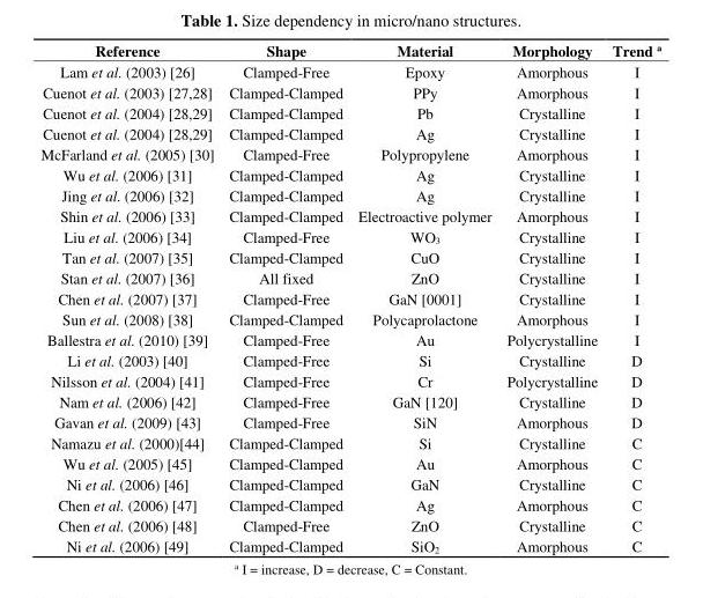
<table><thead><tr><td>Reference</td><td>Shape</td><td>Material</td><td>Morphology</td><td>Trend <sup>a</sup></td></tr></thead><tbody><tr><td>Lam et al. (2003) [26]</td><td>Clamped-Free</td><td>Epoxy</td><td>Amorphous</td><td>I</td></tr><tr><td>Cuenot et al. (2003) [27,28]</td><td>Clamped-Clamped</td><td>PPy</td><td>Amorphous</td><td>I</td></tr><tr><td>Cuenot et al. (2004) [28,29]</td><td>Clamped-Clamped</td><td>Pb</td><td>Crystalline</td><td>I</td></tr><tr><td>Cuenot et al. (2004) [28,29]</td><td>Clamped-Clamped</td><td>Ag</td><td>Crystalline</td><td>I</td></tr><tr><td>McFarland et al. (2005) [30]</td><td>Clamped-Free</td><td>Polypropylene</td><td>Amorphous</td><td>I</td></tr><tr><td>Wu et al. (2006) [31]</td><td>Clamped-Clamped</td><td>Ag</td><td>Crystalline</td><td>I</td></tr><tr><td>Jing et al. (2006) [32]</td><td>Clamped-Clamped</td><td>Ag</td><td>Crystalline</td><td>I</td></tr><tr><td>Shin et al. (2006) [33]</td><td>Clamped-Clamped</td><td>Electroactive polymer</td><td>Amorphous</td><td>I</td></tr><tr><td>Liu et al. (2006) [34]</td><td>Clamped-Free</td><td>WO<sub>3</sub></td><td>Crystalline</td><td>I</td></tr><tr><td>Tan et al. (2007) [35]</td><td>Clamped-Clamped</td><td>CuO</td><td>Crystalline</td><td>I</td></tr><tr><td>Stan et al. (2007) [36]</td><td>All fixed</td><td>ZnO</td><td>Crystalline</td><td>I</td></tr><tr><td>Chen et al. (2007) [37]</td><td>Clamped-Free</td><td>GaN [0001]</td><td>Crystalline</td><td>I</td></tr><tr><td>Sun et al. (2008) [38]</td><td>Clamped-Clamped</td><td>Polycaprolactone</td><td>Amorphous</td><td>I</td></tr><tr><td>Ballestra et al. (2010) [39]</td><td>Clamped-Free</td><td>Au</td><td>Polycrystalline</td><td>I</td></tr><tr><td>Li et al. (2003) [40]</td><td>Clamped-Free</td><td>Si</td><td>Crystalline</td><td>D</td></tr><tr><td>Nilsson et al. (2004) [41]</td><td>Clamped-Free</td><td>Cr</td><td>Polycrystalline</td><td>D</td></tr><tr><td>Nam et al. (2006) [42]</td><td>Clamped-Free</td><td>GaN [120]</td><td>Crystalline</td><td>D</td></tr><tr><td>Gavan et al. (2009) [43]</td><td>Clamped-Free</td><td>SiN</td><td>Amorphous</td><td>D</td></tr><tr><td>Namazu et al. (2000)[44]</td><td>Clamped-Clamped</td><td>Si</td><td>Crystalline</td><td>C</td></tr><tr><td>Wu et al. (2005) [45]</td><td>Clamped-Clamped</td><td>Au</td><td>Amorphous</td><td>C</td></tr><tr><td>Ni et al. (2006) [46]</td><td>Clamped-Clamped</td><td>GaN</td><td>Crystalline</td><td>C</td></tr><tr><td>Chen et al. (2006) [47]</td><td>Clamped-Clamped</td><td>Ag</td><td>Amorphous</td><td>C</td></tr><tr><td>Chen et al. (2006) [48]</td><td>Clamped-Free</td><td>ZnO</td><td>Crystalline</td><td>C</td></tr><tr><td>Ni et al. (2006) [49]</td><td>Clamped-Clamped</td><td>SiO<sub>2</sub></td><td>Amorphous</td><td>C</td></tr></tbody></table>